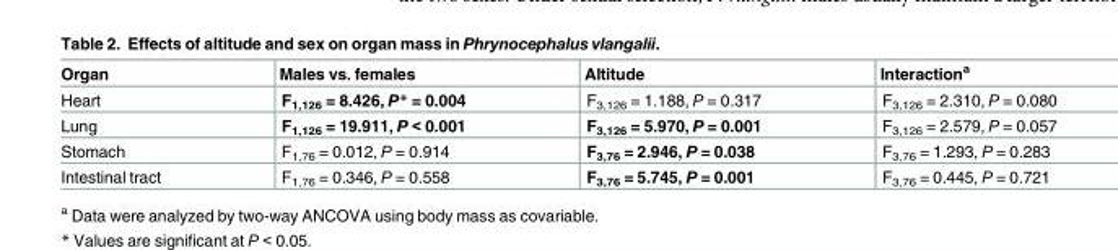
<table><thead><tr><td>Organ</td><td>Males vs. females</td><td>Altitude</td><td>Interaction<sup>a</sup></td></tr></thead><tbody><tr><td>Heart</td><td>F<sub>1,126</sub> = 8.426, P* = 0.004</td><td>F<sub>3,126</sub> = 1.188, P = 0.317</td><td>F<sub>3,126</sub> = 2.310, P = 0.080</td></tr><tr><td>Lung</td><td>F<sub>1,126</sub> = 19.911, P &lt; 0.001</td><td>F<sub>3,126</sub> = 5.970, P = 0.001</td><td>F<sub>3,126</sub> = 2.579, P = 0.057</td></tr><tr><td>Stomach</td><td>F<sub>1,76</sub> = 0.012, P = 0.914</td><td>F<sub>3,76</sub> = 2.946, P = 0.038</td><td>F<sub>3,76</sub> = 1.293, P = 0.283</td></tr><tr><td>Intestinal tract</td><td>F<sub>1,76</sub> = 0.346, P = 0.558</td><td>F<sub>3,76</sub> = 5.745, P = 0.001</td><td>F<sub>3,76</sub> = 0.445, P = 0.721</td></tr></tbody></table>